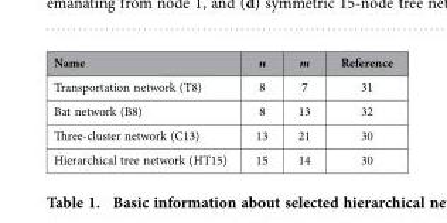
<table><thead><tr><td>Name</td><td>n</td><td>m</td><td>Reference</td></tr></thead><tbody><tr><td>Transportation network (T8)</td><td>8</td><td>7</td><td>31</td></tr><tr><td>Bat network (B8)</td><td>8</td><td>13</td><td>32</td></tr><tr><td>Three-cluster network (C13)</td><td>13</td><td>21</td><td>30</td></tr><tr><td>Hierarchical tree network (HT15)</td><td>15</td><td>14</td><td>30</td></tr></tbody></table>